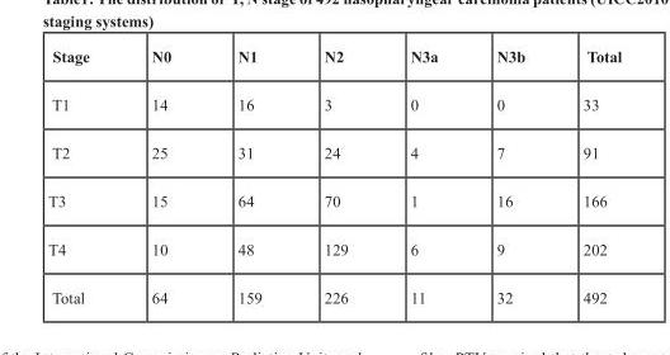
<table><thead><tr><td>Stage</td><td>N0</td><td>N1</td><td>N2</td><td>N3a</td><td>N3b</td><td>Total</td></tr></thead><tbody><tr><td>T1</td><td>14</td><td>16</td><td>3</td><td>0</td><td>0</td><td>33</td></tr><tr><td>T2</td><td>25</td><td>31</td><td>24</td><td>4</td><td>7</td><td>91</td></tr><tr><td>T3</td><td>15</td><td>64</td><td>70</td><td>1</td><td>16</td><td>166</td></tr><tr><td>T4</td><td>10</td><td>48</td><td>129</td><td>6</td><td>9</td><td>202</td></tr><tr><td>Total</td><td>64</td><td>159</td><td>226</td><td>11</td><td>32</td><td>492</td></tr></tbody></table>